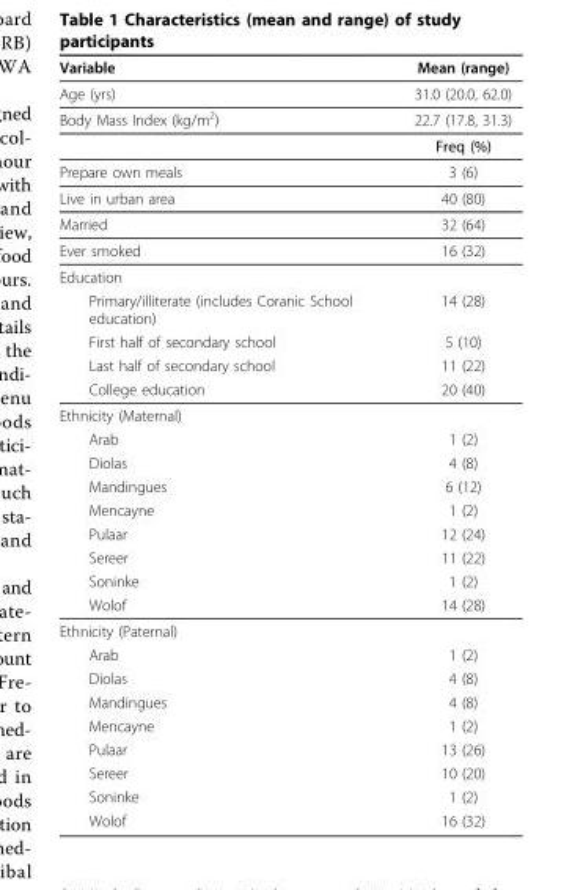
<table><thead><tr><td>Variable</td><td>Mean (range)</td></tr></thead><tbody><tr><td>Age (yrs)</td><td>31.0 (20.0, 62.0)</td></tr><tr><td rowspan="2">Body Mass Index (kg/m<sup>2</sup>)</td><td>22.7 (17.8, 31.3)</td></tr><tr><td>Freq (%)</td></tr><tr><td>Prepare own meals</td><td>3 (6)</td></tr><tr><td>Live in urban area</td><td>40 (80)</td></tr><tr><td>Married</td><td>32 (64)</td></tr><tr><td>Ever smoked</td><td>16 (32)</td></tr><tr><td colspan="2">Education</td></tr><tr><td>Primary/illiterate (includes Coranic School education)</td><td>14 (28)</td></tr><tr><td>First half of secondary school</td><td>5 (10)</td></tr><tr><td>Last half of secondary school</td><td>11 (22)</td></tr><tr><td>College education</td><td>20 (40)</td></tr><tr><td colspan="2">Ethnicity (Maternal)</td></tr><tr><td>Arab</td><td>1 (2)</td></tr><tr><td>Diolas</td><td>4 (8)</td></tr><tr><td>Mandingues</td><td>6 (12)</td></tr><tr><td>Mencayne</td><td>1 (2)</td></tr><tr><td>Pulaar</td><td>12 (24)</td></tr><tr><td>Sereer</td><td>11 (22)</td></tr><tr><td>Soninke</td><td>1 (2)</td></tr><tr><td>Wolof</td><td>14 (28)</td></tr><tr><td colspan="2">Ethnicity (Paternal)</td></tr><tr><td>Arab</td><td>1 (2)</td></tr><tr><td>Diolas</td><td>4 (8)</td></tr><tr><td>Mandingues</td><td>4 (8)</td></tr><tr><td>Mencayne</td><td>1 (2)</td></tr><tr><td>Pulaar</td><td>13 (26)</td></tr><tr><td>Sereer</td><td>10 (20)</td></tr><tr><td>Soninke</td><td>1 (2)</td></tr><tr><td>Wolof</td><td>16 (32)</td></tr></tbody></table>